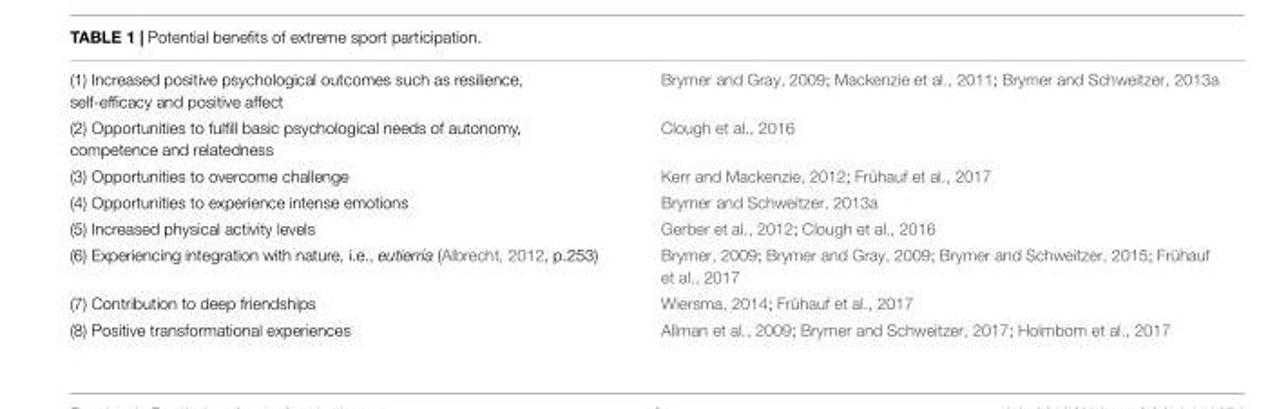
<table><tbody><tr><td>(1) Increased positive psychological outcomes such as resilience, self-efficacy and positive affect</td><td>Brymer and Gray, 2009; Mackenzie et al., 2011; Brymer and Schweitzer, 2013a</td></tr><tr><td>(2) Opportunities to fulfill basic psychological needs of autonomy, competence and relatedness</td><td>Clough et al., 2016</td></tr><tr><td>(3) Opportunities to overcome challenge</td><td>Kerr and Mackenzie, 2012; Frühauf et al., 2017</td></tr><tr><td>(4) Opportunities to experience intense emotions</td><td>Brymer and Schweitzer, 2013a</td></tr><tr><td>(5) Increased physical activity levels</td><td>Gerber et al., 2012; Clough et al., 2016</td></tr><tr><td>(6) Experiencing integration with nature, i.e., eutierria (Albrecht, 2012, p.253)</td><td>Brymer, 2009; Brymer and Gray, 2009; Brymer and Schweitzer, 2015; Frühauf et al., 2017</td></tr><tr><td>(7) Contribution to deep friendships</td><td>Wiersma, 2014; Frühauf et al., 2017</td></tr><tr><td>(8) Positive transformational experiences</td><td>Allman et al., 2009; Brymer and Schweitzer, 2017; Holmbom et al., 2017</td></tr></tbody></table>